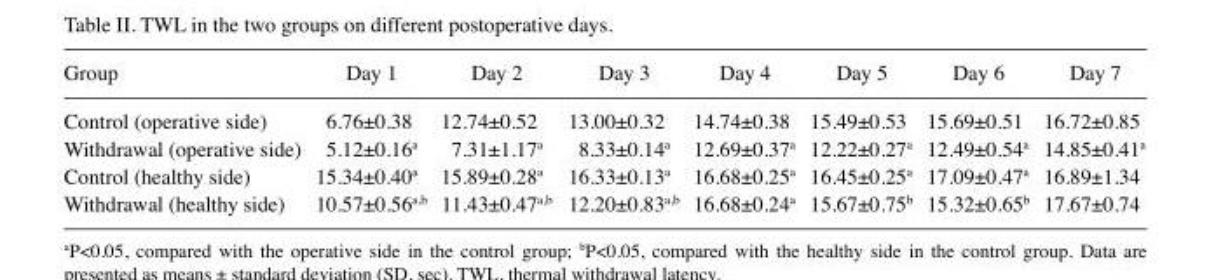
<table><thead><tr><td>Group</td><td>Day 1</td><td>Day 2</td><td>Day 3</td><td>Day 4</td><td>Day 5</td><td>Day 6</td><td>Day 7</td></tr></thead><tbody><tr><td>Control (operative side)</td><td>6.76±0.38</td><td>12.74±0.52</td><td>13.00±0.32</td><td>14.74±0.38</td><td>15.49±0.53</td><td>15.69±0.51</td><td>16.72±0.85</td></tr><tr><td>Withdrawal (operative side)</td><td>5.12±0.16<sup>a</sup></td><td>7.31±1.17<sup>a</sup></td><td>8.33±0.14<sup>a</sup></td><td>12.69±0.37<sup>a</sup></td><td>12.22±0.27<sup>a</sup></td><td>12.49±0.54<sup>a</sup></td><td>14.85±0.41<sup>a</sup></td></tr><tr><td>Control (healthy side)</td><td>15.34±0.40<sup>a</sup></td><td>15.89±0.28<sup>a</sup></td><td>16.33±0.13<sup>a</sup></td><td>16.68±0.25<sup>a</sup></td><td>16.45±0.25<sup>a</sup></td><td>17.09±0.47<sup>a</sup></td><td>16.89±1.34</td></tr><tr><td>Withdrawal (healthy side)</td><td>10.57±0.56<sup>a,b</sup></td><td>11.43±0.47<sup>a,b</sup></td><td>12.20±0.83<sup>a,b</sup></td><td>16.68±0.24<sup>a</sup></td><td>15.67±0.75<sup>b</sup></td><td>15.32±0.65<sup>b</sup></td><td>17.67±0.74</td></tr></tbody></table>